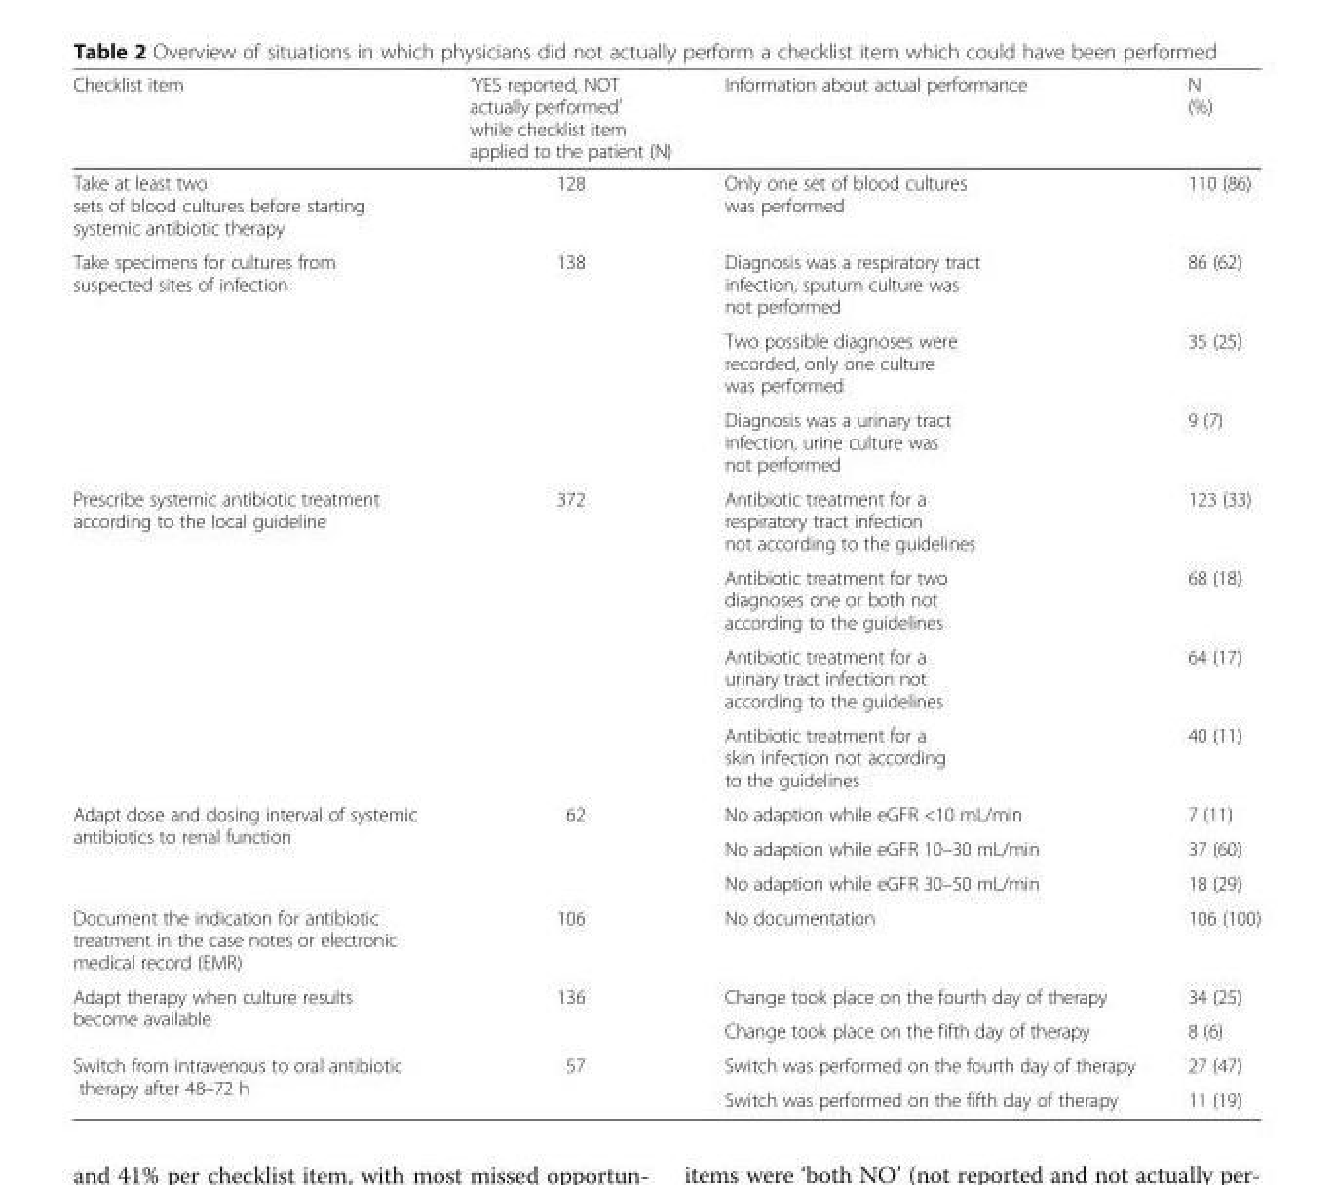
<table><thead><tr><td>Checklist item</td><td>‘YES reported, NOT actually performed’ while checklist item applied to the patient (N)</td><td>Information about actual performance</td><td>N (%)</td></tr></thead><tbody><tr><td>Take at least two sets of blood cultures before starting systemic antibiotic therapy</td><td>128</td><td>Only one set of blood cultures was performed</td><td>110 (86)</td></tr><tr><td rowspan="3">Take specimens for cultures from suspected sites of infection</td><td rowspan="3">138</td><td>Diagnosis was a respiratory tract infection, sputum culture was not performed</td><td>86 (62)</td></tr><tr><td>Two possible diagnoses were recorded, only one culture was performed</td><td>35 (25)</td></tr><tr><td>Diagnosis was a urinary tract infection, urine culture was not performed</td><td>9 (7)</td></tr><tr><td rowspan="4">Prescribe systemic antibiotic treatment according to the local guideline</td><td rowspan="4">372</td><td>Antibiotic treatment for a respiratory tract infection not according to the guidelines</td><td>123 (33)</td></tr><tr><td>Antibiotic treatment for two diagnoses one or both not according to the guidelines</td><td>68 (18)</td></tr><tr><td>Antibiotic treatment for a urinary tract infection not according to the guidelines</td><td>64 (17)</td></tr><tr><td>Antibiotic treatment for a skin infection not according to the guidelines</td><td>40 (11)</td></tr><tr><td rowspan="3">Adapt dose and dosing interval of systemic antibiotics to renal function</td><td rowspan="3">62</td><td>No adaption while eGFR &lt;10 mL/min</td><td>7 (11)</td></tr><tr><td>No adaption while eGFR 10–30 mL/min</td><td>37 (60)</td></tr><tr><td>No adaption while eGFR 30–50 mL/min</td><td>18 (29)</td></tr><tr><td>Document the indication for antibiotic treatment in the case notes or electronic medical record (EMR)</td><td>106</td><td>No documentation</td><td>106 (100)</td></tr><tr><td rowspan="2">Adapt therapy when culture results become available</td><td rowspan="2">136</td><td>Change took place on the fourth day of therapy</td><td>34 (25)</td></tr><tr><td>Change took place on the fifth day of therapy</td><td>8 (6)</td></tr><tr><td rowspan="2">Switch from intravenous to oral antibiotic therapy after 48–72 h</td><td rowspan="2">57</td><td>Switch was performed on the fourth day of therapy</td><td>27 (47)</td></tr><tr><td>Switch was performed on the fifth day of therapy</td><td>11 (19)</td></tr></tbody></table>